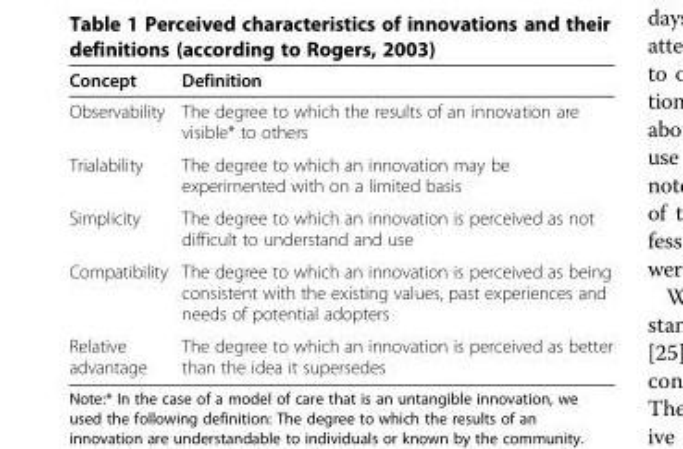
<table><thead><tr><td>Concept</td><td>Definition</td></tr></thead><tbody><tr><td>Observability</td><td>The degree to which the results of an innovation are visible* to others</td></tr><tr><td>Trialability</td><td>The degree to which an innovation may be experimented with on a limited basis</td></tr><tr><td>Simplicity</td><td>The degree to which an innovation is perceived as not difficult to understand and use</td></tr><tr><td>Compatibility</td><td>The degree to which an innovation is perceived as being consistent with the existing values, past experiences and needs of potential adopters</td></tr><tr><td>Relative advantage</td><td>The degree to which an innovation is perceived as better than the idea it supersedes</td></tr></tbody></table>